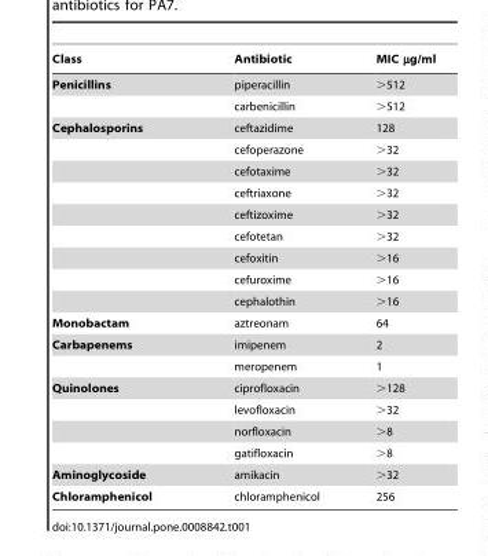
<table><thead><tr><td>Class</td><td>Antibiotic</td><td>MIC µg/ml</td></tr></thead><tbody><tr><td rowspan="2">Penicillins</td><td>piperacillin</td><td>&gt;512</td></tr><tr><td>carbenicillin</td><td>&gt;512</td></tr><tr><td rowspan="9">Cephalosporins</td><td>ceftazidime</td><td>128</td></tr><tr><td>cefoperazone</td><td>&gt;32</td></tr><tr><td>cefotaxime</td><td>&gt;32</td></tr><tr><td>ceftriaxone</td><td>&gt;32</td></tr><tr><td>ceftizoxime</td><td>&gt;32</td></tr><tr><td>cefotetan</td><td>&gt;32</td></tr><tr><td>cefoxitin</td><td>&gt;16</td></tr><tr><td>cefuroxime</td><td>&gt;16</td></tr><tr><td>cephalothin</td><td>&gt;16</td></tr><tr><td>Monobactam</td><td>aztreonam</td><td>64</td></tr><tr><td rowspan="2">Carbapenems</td><td>imipenem</td><td>2</td></tr><tr><td>meropenem</td><td>1</td></tr><tr><td rowspan="4">Quinolones</td><td>ciprofloxacin</td><td>&gt;128</td></tr><tr><td>levofloxacin</td><td>&gt;32</td></tr><tr><td>norfloxacin</td><td>&gt;8</td></tr><tr><td>gatifloxacin</td><td>&gt;8</td></tr><tr><td>Aminoglycoside</td><td>amikacin</td><td>&gt;32</td></tr><tr><td>Chloramphenicol</td><td>chloramphenicol</td><td>256</td></tr></tbody></table>